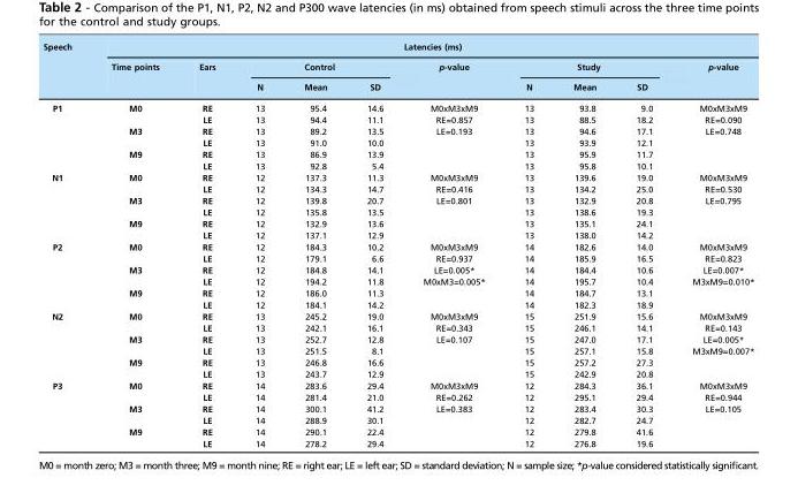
<table><thead><tr><td rowspan="3">Speech</td><td colspan="10">Latencies (ms)</td></tr><tr><td rowspan="2">Time points</td><td rowspan="2">Ears</td><td colspan="3">Control</td><td rowspan="2">p-value</td><td colspan="3">Study</td><td rowspan="2">p-value</td></tr><tr><td>N</td><td>Mean</td><td>SD</td><td>N</td><td>Mean</td><td>SD</td></tr></thead><tbody><tr><td rowspan="6">P1</td><td rowspan="2">M0</td><td>RE</td><td>13</td><td>95.4</td><td>14.6</td><td>M0xM3xM9</td><td>13</td><td>93.8</td><td>9.0</td><td>M0xM3xM9</td></tr><tr><td>LE</td><td>13</td><td>94.4</td><td>11.1</td><td>RE=0.857</td><td>13</td><td>88.5</td><td>18.2</td><td>RE=0.090</td></tr><tr><td rowspan="2">M3</td><td>RE</td><td>13</td><td>89.2</td><td>13.5</td><td>LE=0.193</td><td>13</td><td>94.6</td><td>17.1</td><td>LE=0.748</td></tr><tr><td>LE</td><td>13</td><td>91.0</td><td>10.0</td><td></td><td>13</td><td>93.9</td><td>12.1</td><td></td></tr><tr><td rowspan="2">M9</td><td>RE</td><td>13</td><td>86.9</td><td>13.9</td><td></td><td>13</td><td>95.9</td><td>11.7</td><td></td></tr><tr><td>LE</td><td>13</td><td>92.8</td><td>5.4</td><td></td><td>13</td><td>95.8</td><td>10.1</td><td></td></tr><tr><td rowspan="6">N1</td><td rowspan="2">M0</td><td>RE</td><td>12</td><td>137.3</td><td>11.3</td><td>M0xM3xM9</td><td>13</td><td>139.6</td><td>19.0</td><td>M0xM3xM9</td></tr><tr><td>LE</td><td>12</td><td>134.3</td><td>14.7</td><td>RE=0.416</td><td>13</td><td>134.2</td><td>25.0</td><td>RE=0.530</td></tr><tr><td rowspan="2">M3</td><td>RE</td><td>12</td><td>139.8</td><td>20.7</td><td>LE=0.801</td><td>13</td><td>132.9</td><td>20.8</td><td>LE=0.795</td></tr><tr><td>LE</td><td>12</td><td>135.8</td><td>13.5</td><td></td><td>13</td><td>138.6</td><td>19.3</td><td></td></tr><tr><td rowspan="2">M9</td><td>RE</td><td>12</td><td>132.9</td><td>13.6</td><td></td><td>13</td><td>135.1</td><td>24.1</td><td></td></tr><tr><td>LE</td><td>12</td><td>137.1</td><td>12.9</td><td></td><td>13</td><td>138.0</td><td>14.2</td><td></td></tr><tr><td rowspan="6">P2</td><td rowspan="2">M0</td><td>RE</td><td>12</td><td>184.3</td><td>10.2</td><td>M0xM3xM9</td><td>14</td><td>182.6</td><td>14.0</td><td>M0xM3xM9</td></tr><tr><td>LE</td><td>12</td><td>179.1</td><td>6.6</td><td>RE=0.937</td><td>14</td><td>185.9</td><td>16.5</td><td>RE=0.823</td></tr><tr><td rowspan="2">M3</td><td>RE</td><td>12</td><td>184.8</td><td>14.1</td><td>LE=0.005*</td><td>14</td><td>184.4</td><td>10.6</td><td>LE=0.007*</td></tr><tr><td>LE</td><td>12</td><td>194.2</td><td>11.8</td><td>M0xM3=0.005*</td><td>14</td><td>195.7</td><td>10.4</td><td>M3xM9=0.010*</td></tr><tr><td rowspan="2">M9</td><td>RE</td><td>12</td><td>186.0</td><td>11.3</td><td></td><td>14</td><td>184.7</td><td>13.1</td><td></td></tr><tr><td>LE</td><td>12</td><td>184.1</td><td>14.2</td><td></td><td>14</td><td>182.3</td><td>18.9</td><td></td></tr><tr><td rowspan="6">N2</td><td rowspan="2">M0</td><td>RE</td><td>13</td><td>245.2</td><td>19.0</td><td>M0xM3xM9</td><td>15</td><td>251.9</td><td>15.6</td><td>M0xM3xM9</td></tr><tr><td>LE</td><td>13</td><td>242.1</td><td>16.1</td><td>RE=0.343</td><td>15</td><td>246.1</td><td>14.1</td><td>RE=0.143</td></tr><tr><td rowspan="2">M3</td><td>RE</td><td>13</td><td>252.7</td><td>12.8</td><td>LE=0.107</td><td>15</td><td>247.0</td><td>17.1</td><td>LE=0.005*</td></tr><tr><td>LE</td><td>13</td><td>251.5</td><td>8.1</td><td></td><td>15</td><td>257.1</td><td>15.8</td><td>M3xM9=0.007*</td></tr><tr><td rowspan="2">M9</td><td>RE</td><td>13</td><td>246.8</td><td>16.6</td><td></td><td>15</td><td>257.2</td><td>27.3</td><td></td></tr><tr><td>LE</td><td>13</td><td>243.7</td><td>12.9</td><td></td><td>15</td><td>242.9</td><td>20.8</td><td></td></tr><tr><td rowspan="6">P3</td><td rowspan="2">M0</td><td>RE</td><td>14</td><td>283.6</td><td>29.4</td><td>M0xM3xM9</td><td>12</td><td>284.3</td><td>36.1</td><td>M0xM3xM9</td></tr><tr><td>LE</td><td>14</td><td>281.4</td><td>21.0</td><td>RE=0.262</td><td>12</td><td>295.1</td><td>29.4</td><td>RE=0.944</td></tr><tr><td rowspan="2">M3</td><td>RE</td><td>14</td><td>300.1</td><td>41.2</td><td>LE=0.383</td><td>12</td><td>283.4</td><td>30.3</td><td>LE=0.105</td></tr><tr><td>LE</td><td>14</td><td>288.9</td><td>30.1</td><td></td><td>12</td><td>282.7</td><td>24.7</td><td></td></tr><tr><td rowspan="2">M9</td><td>RE</td><td>14</td><td>290.1</td><td>22.4</td><td></td><td>12</td><td>279.8</td><td>41.6</td><td></td></tr><tr><td>LE</td><td>14</td><td>278.2</td><td>29.4</td><td></td><td>12</td><td>276.8</td><td>19.6</td><td></td></tr></tbody></table>